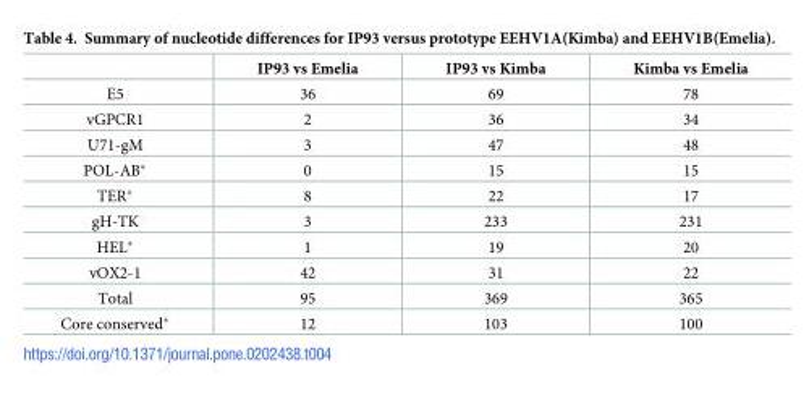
<table><thead><tr><td></td><td>IP93 vs Emelia</td><td>IP93 vs Kimba</td><td>Kimba vs Emelia</td></tr></thead><tbody><tr><td>E5</td><td>36</td><td>69</td><td>78</td></tr><tr><td>vGPCR1</td><td>2</td><td>36</td><td>34</td></tr><tr><td>U71-gM</td><td>3</td><td>47</td><td>48</td></tr><tr><td>POL-AB*</td><td>0</td><td>15</td><td>15</td></tr><tr><td>TER*</td><td>8</td><td>22</td><td>17</td></tr><tr><td>gH-TK</td><td>3</td><td>233</td><td>231</td></tr><tr><td>HEL*</td><td>1</td><td>19</td><td>20</td></tr><tr><td>vOX2-1</td><td>42</td><td>31</td><td>22</td></tr><tr><td>Total</td><td>95</td><td>369</td><td>365</td></tr><tr><td>Core conserved*</td><td>12</td><td>103</td><td>100</td></tr></tbody></table>